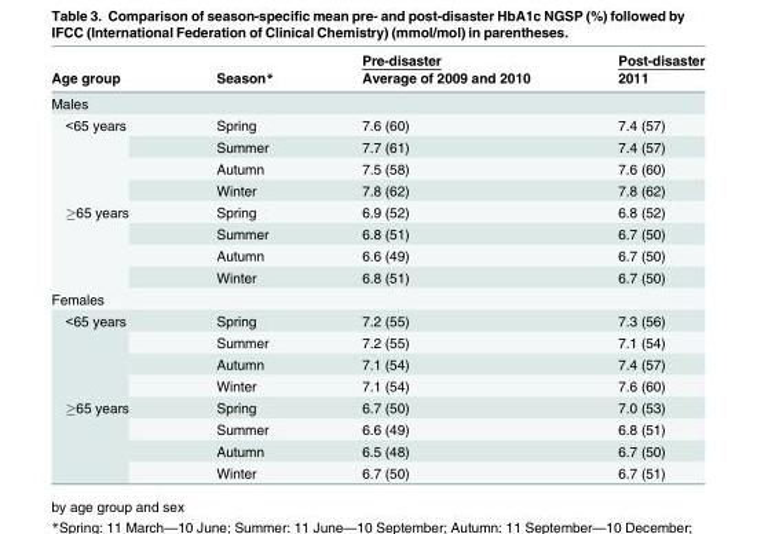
<table><thead><tr><td rowspan="2">Age group</td><td rowspan="2">Season*</td><td rowspan="2">Pre-disaster Average of 2009 and 2010</td><td rowspan="2">Post-disaster 2011</td></tr><tr></tr></thead><tbody><tr><td colspan="4">Males</td></tr><tr><td rowspan="4">&lt;65 years</td><td>Spring</td><td>7.6 (60)</td><td>7.4 (57)</td></tr><tr><td>Summer</td><td>7.7 (61)</td><td>7.4 (57)</td></tr><tr><td>Autumn</td><td>7.5 (58)</td><td>7.6 (60)</td></tr><tr><td>Winter</td><td>7.8 (62)</td><td>7.8 (62)</td></tr><tr><td rowspan="4">≥65 years</td><td>Spring</td><td>6.9 (52)</td><td>6.8 (52)</td></tr><tr><td>Summer</td><td>6.8 (51)</td><td>6.7 (50)</td></tr><tr><td>Autumn</td><td>6.6 (49)</td><td>6.7 (50)</td></tr><tr><td>Winter</td><td>6.8 (51)</td><td>6.7 (50)</td></tr><tr><td colspan="4">Females</td></tr><tr><td rowspan="4">&lt;65 years</td><td>Spring</td><td>7.2 (55)</td><td>7.3 (56)</td></tr><tr><td>Summer</td><td>7.2 (55)</td><td>7.1 (54)</td></tr><tr><td>Autumn</td><td>7.1 (54)</td><td>7.4 (57)</td></tr><tr><td>Winter</td><td>7.1 (54)</td><td>7.6 (60)</td></tr><tr><td rowspan="4">≥65 years</td><td>Spring</td><td>6.7 (50)</td><td>7.0 (53)</td></tr><tr><td>Summer</td><td>6.6 (49)</td><td>6.8 (51)</td></tr><tr><td>Autumn</td><td>6.5 (48)</td><td>6.7 (50)</td></tr><tr><td>Winter</td><td>6.7 (50)</td><td>6.7 (51)</td></tr></tbody></table>